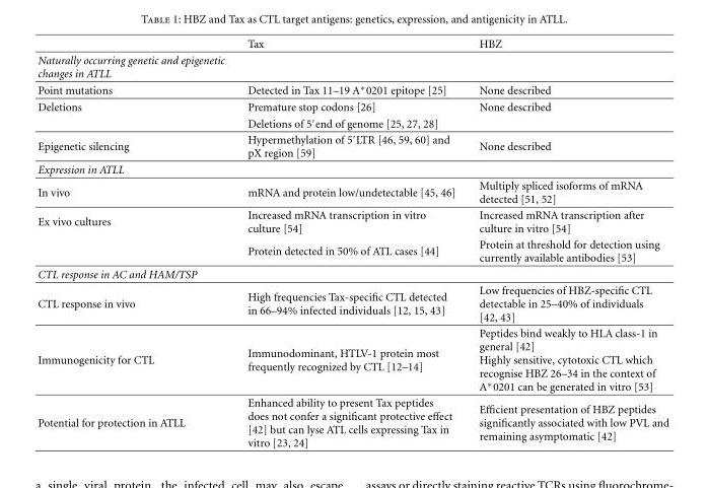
<table><thead><tr><td></td><td>Tax</td><td>HBZ</td></tr></thead><tbody><tr><td colspan="3">Naturally occurring genetic and epigenetic changes in ATLL</td></tr><tr><td>Point mutations</td><td>Detected in Tax 11–19 A∗0201 epitope [25]</td><td>None described</td></tr><tr><td rowspan="2">Deletions</td><td>Premature stop codons [26]</td><td>None described</td></tr><tr><td>Deletions of 5′end of genome [25, 27, 28]</td><td></td></tr><tr><td>Epigenetic silencing</td><td>Hypermethylation of 5′LTR [46, 59, 60] and pX region [59]</td><td>None described</td></tr><tr><td colspan="3">Expression in ATLL</td></tr><tr><td>In vivo</td><td>mRNA and protein low/undetectable [45, 46]</td><td>Multiply spliced isoforms of mRNA detected [51, 52]</td></tr><tr><td rowspan="2">Ex vivo cultures</td><td>Increased mRNA transcription in vitro culture [54]</td><td>Increased mRNA transcription after culture in vitro [54]</td></tr><tr><td>Protein detected in 50% of ATL cases [44]</td><td>Protein at threshold for detection using currently available antibodies [53]</td></tr><tr><td colspan="3">CTL response in AC and HAM/TSP</td></tr><tr><td>CTL response in vivo</td><td>High frequencies Tax-specific CTL detected in 66–94% infected individuals [12, 15, 43]</td><td>Low frequencies of HBZ-specific CTL detectable in 25–40% of individuals [42, 43]</td></tr><tr><td>Immunogenicity for CTL</td><td>Immunodominant, HTLV-1 protein most frequently recognized by CTL [12–14]</td><td>Peptides bind weakly to HLA class-1 in general [42] Highly sensitive, cytotoxic CTL which recognise HBZ 26–34 in the context of A∗0201 can be generated in vitro [53]</td></tr><tr><td>Potential for protection in ATLL</td><td>Enhanced ability to present Tax peptides does not confer a significant protective effect [42] but can lyse ATL cells expressing Tax in vitro [23, 24]</td><td>Efficient presentation of HBZ peptides significantly associated with low PVL and remaining asymptomatic [42]</td></tr></tbody></table>